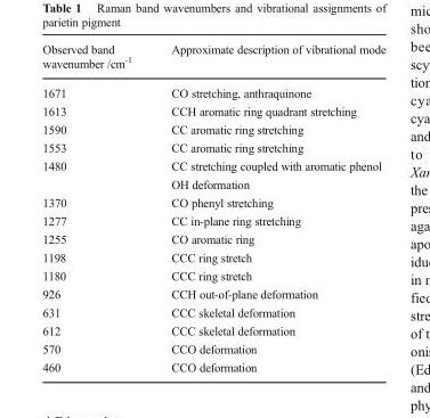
<table><thead><tr><td>Observed band wavenumber /cm<sup>-1</sup></td><td>Approximate description of vibrational mode</td></tr></thead><tbody><tr><td>1671</td><td>CO stretching, anthraquinone</td></tr><tr><td>1613</td><td>CCH aromatic ring quadrant stretching</td></tr><tr><td>1590</td><td>CC aromatic ring stretching</td></tr><tr><td>1553</td><td>CC aromatic ring stretching</td></tr><tr><td rowspan="2">1480</td><td>CC stretching coupled with aromatic phenol</td></tr><tr><td>OH deformation</td></tr><tr><td>1370</td><td>CO phenyl stretching</td></tr><tr><td>1277</td><td>CC in-plane ring stretching</td></tr><tr><td>1255</td><td>CO aromatic ring</td></tr><tr><td>1198</td><td>CCC ring stretch</td></tr><tr><td>1180</td><td>CCC ring stretch</td></tr><tr><td>926</td><td>CCH out-of-plane deformation</td></tr><tr><td>631</td><td>CCC skeletal deformation</td></tr><tr><td>612</td><td>CCC skeletal deformation</td></tr><tr><td>570</td><td>CCO deformation</td></tr><tr><td>460</td><td>CCO deformation</td></tr></tbody></table>